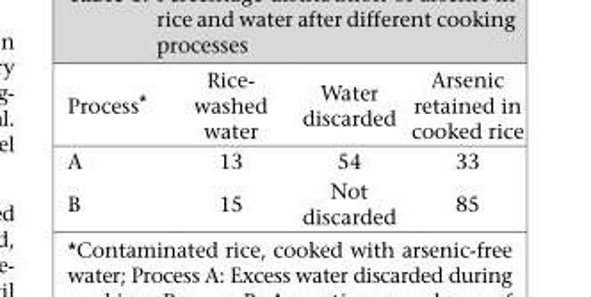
<table><thead><tr><td>Process*</td><td>Rice- washed water</td><td>Water discarded</td><td>Arsenic retained in cooked rice</td></tr></thead><tbody><tr><td>A</td><td>13</td><td>54</td><td>33</td></tr><tr><td>B</td><td>15</td><td>Not discarded</td><td>85</td></tr></tbody></table>